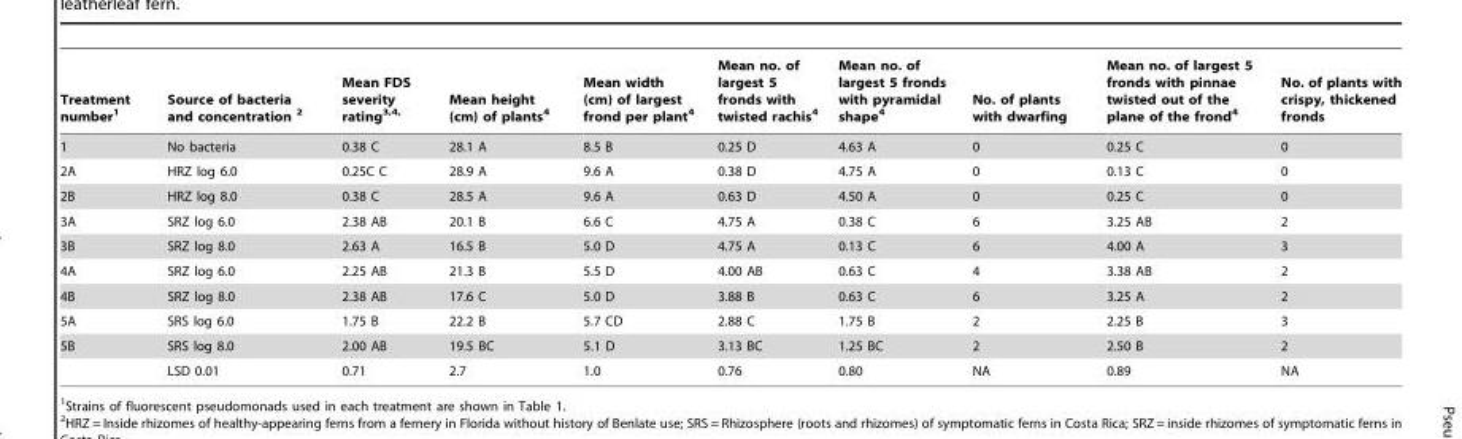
<table><thead><tr><td>Treatment number<sup>1</sup></td><td>Source of bacteria and concentration 2</td><td>Mean FDS severity rating<sup>3,</sup>4<sup>,</sup></td><td>Mean height (cm) of plants<sup>4</sup></td><td>Mean width (cm) of largest frond per plant<sup>4</sup></td><td>Mean no. of largest 5 fronds with twisted rachis<sup>4</sup></td><td>Mean no. of largest 5 fronds with pyramidal shape<sup>4</sup></td><td>No. of plants with dwarfing</td><td>Mean no. of largest 5 fronds with pinnae twisted out of the plane of the frond<sup>4</sup></td><td>No. of plants with crispy, thickened fronds</td></tr></thead><tbody><tr><td>1</td><td>No bacteria</td><td>0.38 C</td><td>28.1 A</td><td>8.5 B</td><td>0.25 D</td><td>4.63 A</td><td>0</td><td>0.25 C</td><td>0</td></tr><tr><td>2A</td><td>HRZ log 6.0</td><td>0.25C C</td><td>28.9 A</td><td>9.6 A</td><td>0.38 D</td><td>4.75 A</td><td>0</td><td>0.13 C</td><td>0</td></tr><tr><td>2B</td><td>HRZ log 8.0</td><td>0.38 C</td><td>28.5 A</td><td>9.6 A</td><td>0.63 D</td><td>4.50 A</td><td>0</td><td>0.25 C</td><td>0</td></tr><tr><td>3A</td><td>SRZ log 6.0</td><td>2.38 AB</td><td>20.1 B</td><td>6.6 C</td><td>4.75 A</td><td>0.38 C</td><td>6</td><td>3.25 AB</td><td>2</td></tr><tr><td>3B</td><td>SRZ log 8.0</td><td>2.63 A</td><td>16.5 B</td><td>5.0 D</td><td>4.75 A</td><td>0.13 C</td><td>6</td><td>4.00 A</td><td>3</td></tr><tr><td>4A</td><td>SRZ log 6.0</td><td>2.25 AB</td><td>21.3 B</td><td>5.5 D</td><td>4.00 AB</td><td>0.63 C</td><td>4</td><td>3.38 AB</td><td>2</td></tr><tr><td>4B</td><td>SRZ log 8.0</td><td>2.38 AB</td><td>17.6 C</td><td>5.0 D</td><td>3.88 B</td><td>0.63 C</td><td>6</td><td>3.25 A</td><td>2</td></tr><tr><td>5A</td><td>SRS log 6.0</td><td>1.75 B</td><td>22.2 B</td><td>5.7 CD</td><td>2.88 C</td><td>1.75 B</td><td>2</td><td>2.25 B</td><td>3</td></tr><tr><td rowspan="2">5B</td><td>SRS log 8.0</td><td>2.00 AB</td><td>19.5 BC</td><td>5.1 D</td><td>3.13 BC</td><td>1.25 BC</td><td>2</td><td>2.50 B</td><td>2</td></tr><tr><td>LSD 0.01</td><td>0.71</td><td>2.7</td><td>1.0</td><td>0.76</td><td>0.80</td><td>NA</td><td>0.89</td><td>NA</td></tr></tbody></table>